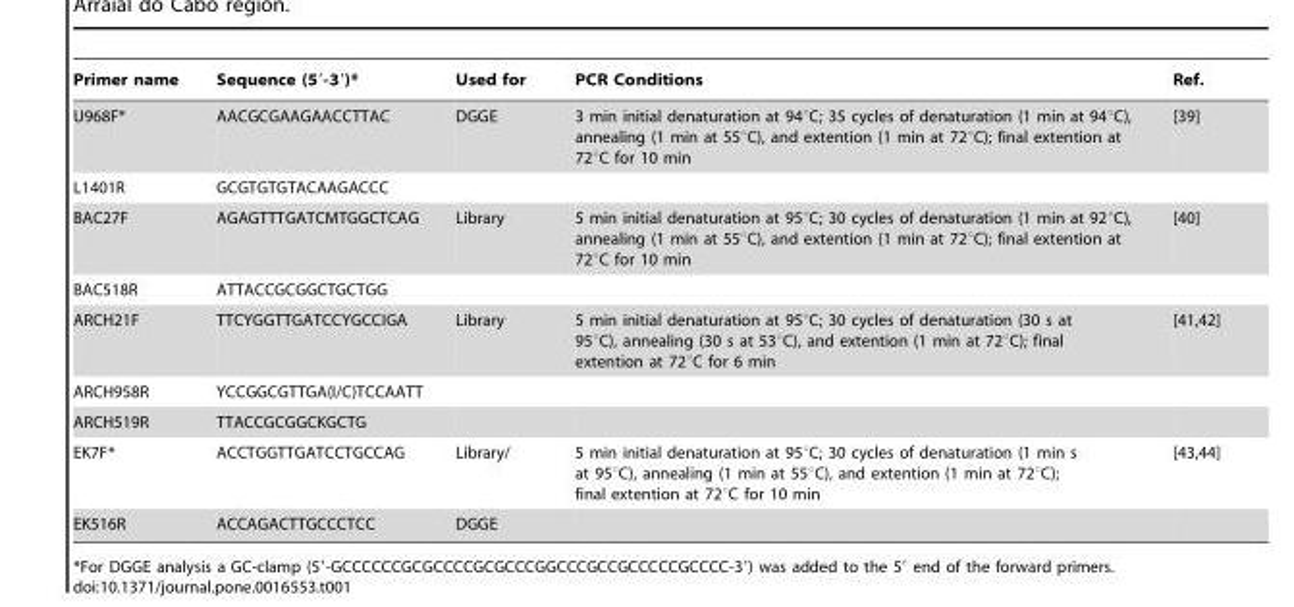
<table><thead><tr><td>Primer name</td><td>Sequence (5′-3′)*</td><td>Used for</td><td>PCR Conditions</td><td>Ref.</td></tr></thead><tbody><tr><td>U968F*</td><td>AACGCGAAGAACCTTAC</td><td>DGGE</td><td>3 min initial denaturation at 94°C; 35 cycles of denaturation (1 min at 94°C), annealing (1 min at 55°C), and extention (1 min at 72°C); final extention at 72°C for 10 min</td><td>[39]</td></tr><tr><td>L1401R</td><td>GCGTGTGTACAAGACCC</td><td></td><td></td><td></td></tr><tr><td>BAC27F</td><td>AGAGTTTGATCMTGGCTCAG</td><td>Library</td><td>5 min initial denaturation at 95°C; 30 cycles of denaturation (1 min at 92°C), annealing (1 min at 55°C), and extention (1 min at 72°C); final extention at 72°C for 10 min</td><td>[40]</td></tr><tr><td>BAC518R</td><td>ATTACCGCGGCTGCTGG</td><td></td><td></td><td></td></tr><tr><td>ARCH21F</td><td>TTCYGGTTGATCCYGCCIGA</td><td>Library</td><td>5 min initial denaturation at 95°C; 30 cycles of denaturation (30 s at 95°C), annealing (30 s at 53°C), and extention (1 min at 72°C); final extention at 72°C for 6 min</td><td>[41,42]</td></tr><tr><td>ARCH958R</td><td>YCCGGCGTTGA(I/C)TCCAATT</td><td></td><td></td><td></td></tr><tr><td>ARCH519R</td><td>TTACCGCGGCKGCTG</td><td></td><td></td><td></td></tr><tr><td>EK7F*</td><td>ACCTGGTTGATCCTGCCAG</td><td>Library/</td><td>5 min initial denaturation at 95°C; 30 cycles of denaturation (1 min s at 95°C), annealing (1 min at 55°C), and extention (1 min at 72°C); final extention at 72°C for 10 min</td><td>[43,44]</td></tr><tr><td>EK516R</td><td>ACCAGACTTGCCCTCC</td><td>DGGE</td><td></td><td></td></tr></tbody></table>